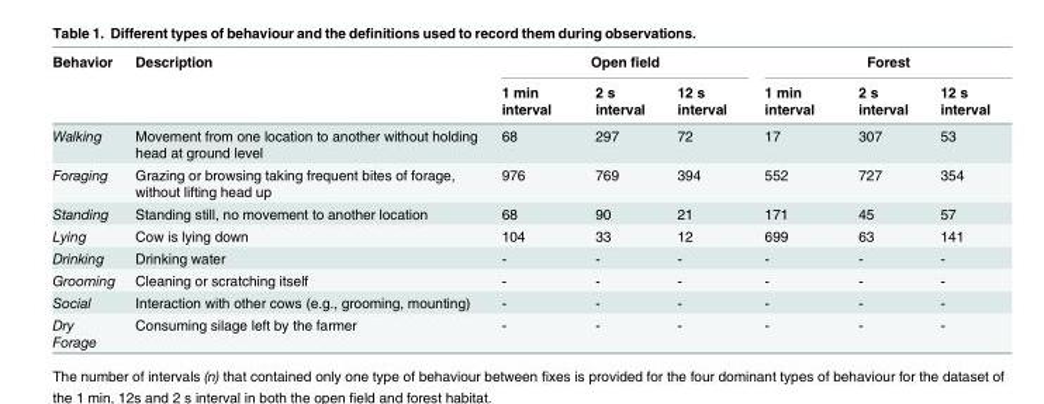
<table><thead><tr><td rowspan="2">Behavior</td><td rowspan="2">Description</td><td colspan="3">Open field</td><td colspan="3">Forest</td></tr><tr><td>1 min interval</td><td>2 s interval</td><td>12 s interval</td><td>1 min interval</td><td>2 s interval</td><td>12 s interval</td></tr></thead><tbody><tr><td>Walking</td><td>Movement from one location to another without holding head at ground level</td><td>68</td><td>297</td><td>72</td><td>17</td><td>307</td><td>53</td></tr><tr><td>Foraging</td><td>Grazing or browsing taking frequent bites of forage, without lifting head up</td><td>976</td><td>769</td><td>394</td><td>552</td><td>727</td><td>354</td></tr><tr><td>Standing</td><td>Standing still, no movement to another location</td><td>68</td><td>90</td><td>21</td><td>171</td><td>45</td><td>57</td></tr><tr><td>Lying</td><td>Cow is lying down</td><td>104</td><td>33</td><td>12</td><td>699</td><td>63</td><td>141</td></tr><tr><td>Drinking</td><td>Drinking water</td><td>-</td><td>-</td><td>-</td><td>-</td><td>-</td><td>-</td></tr><tr><td>Grooming</td><td>Cleaning or scratching itself</td><td>-</td><td>-</td><td>-</td><td>-</td><td>-</td><td>-</td></tr><tr><td>Social</td><td>Interaction with other cows (e.g., grooming, mounting)</td><td>-</td><td>-</td><td>-</td><td>-</td><td>-</td><td>-</td></tr><tr><td>Dry Forage</td><td>Consuming silage left by the farmer</td><td>-</td><td>-</td><td>-</td><td>-</td><td>-</td><td>-</td></tr></tbody></table>